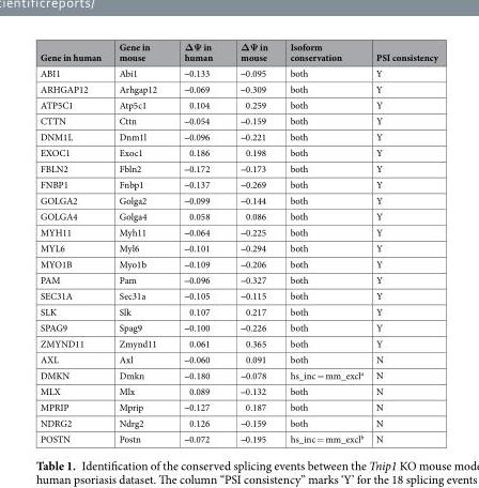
<table><thead><tr><td>Gene in human</td><td>Gene in mouse</td><td>ΔΨ in human</td><td>ΔΨ in mouse</td><td>Isoform conservation</td><td>PSI consistency</td></tr></thead><tbody><tr><td>ABI1</td><td>Abi1</td><td>‒0.133</td><td>‒0.095</td><td>both</td><td>Y</td></tr><tr><td>ARHGAP12</td><td>Arhgap12</td><td>‒0.069</td><td>‒0.309</td><td>both</td><td>Y</td></tr><tr><td>ATP5C1</td><td>Atp5c1</td><td>0.104</td><td>0.259</td><td>both</td><td>Y</td></tr><tr><td>CTTN</td><td>Cttn</td><td>‒0.054</td><td>‒0.159</td><td>both</td><td>Y</td></tr><tr><td>DNM1L</td><td>Dnm1l</td><td>‒0.096</td><td>‒0.221</td><td>both</td><td>Y</td></tr><tr><td>EXOC1</td><td>Exoc1</td><td>0.186</td><td>0.198</td><td>both</td><td>Y</td></tr><tr><td>FBLN2</td><td>Fbln2</td><td>‒0.172</td><td>‒0.173</td><td>both</td><td>Y</td></tr><tr><td>FNBP1</td><td>Fnbp1</td><td>‒0.137</td><td>‒0.269</td><td>both</td><td>Y</td></tr><tr><td>GOLGA2</td><td>Golga2</td><td>‒0.099</td><td>‒0.144</td><td>both</td><td>Y</td></tr><tr><td>GOLGA4</td><td>Golga4</td><td>0.058</td><td>0.086</td><td>both</td><td>Y</td></tr><tr><td>MYH11</td><td>Myh11</td><td>‒0.064</td><td>‒0.225</td><td>both</td><td>Y</td></tr><tr><td>MYL6</td><td>Myl6</td><td>‒0.101</td><td>‒0.294</td><td>both</td><td>Y</td></tr><tr><td>MYO1B</td><td>Myo1b</td><td>‒0.109</td><td>‒0.206</td><td>both</td><td>Y</td></tr><tr><td>PAM</td><td>Pam</td><td>‒0.096</td><td>‒0.327</td><td>both</td><td>Y</td></tr><tr><td>SEC31A</td><td>Sec31a</td><td>‒0.105</td><td>‒0.115</td><td>both</td><td>Y</td></tr><tr><td>SLK</td><td>Slk</td><td>0.107</td><td>0.217</td><td>both</td><td>Y</td></tr><tr><td>SPAG9</td><td>Spag9</td><td>‒0.100</td><td>‒0.226</td><td>both</td><td>Y</td></tr><tr><td>ZMYND11</td><td>Zmynd11</td><td>0.061</td><td>0.365</td><td>both</td><td>Y</td></tr><tr><td>AXL</td><td>Axl</td><td>‒0.060</td><td>0.091</td><td>both</td><td>N</td></tr><tr><td>DMKN</td><td>Dmkn</td><td>‒0.180</td><td>‒0.078</td><td>hs_inc = mm_excl<sup>a</sup></td><td>N</td></tr><tr><td>MLX</td><td>Mlx</td><td>0.089</td><td>‒0.132</td><td>both</td><td>N</td></tr><tr><td>MPRIP</td><td>Mprip</td><td>‒0.127</td><td>0.187</td><td>both</td><td>N</td></tr><tr><td>NDRG2</td><td>Ndrg2</td><td>0.126</td><td>‒0.159</td><td>both</td><td>N</td></tr><tr><td>POSTN</td><td>Postn</td><td>‒0.072</td><td>‒0.195</td><td>hs_inc = mm_excl<sup>b</sup></td><td>N</td></tr></tbody></table>